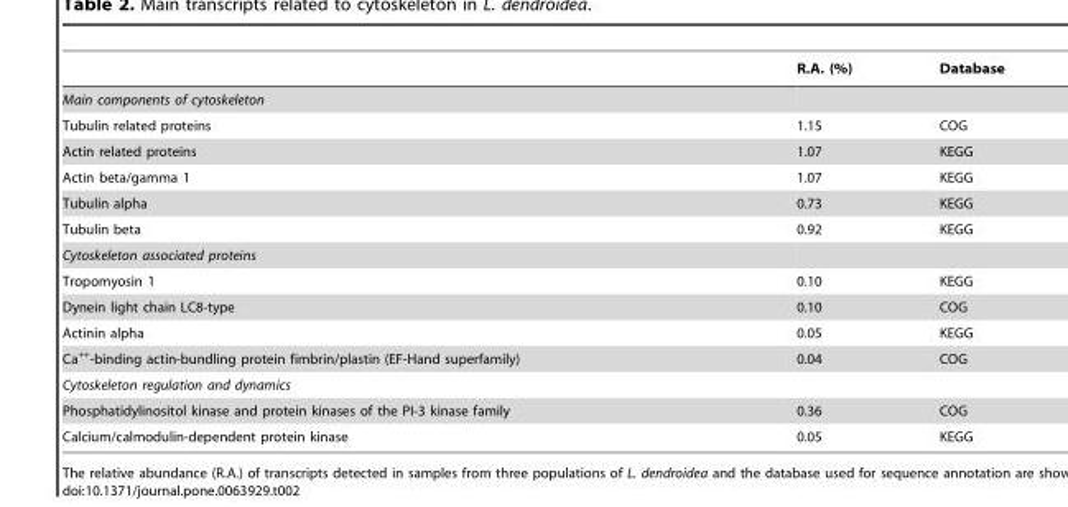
<table><thead><tr><td></td><td>R.A. (%)</td><td>Database</td></tr></thead><tbody><tr><td colspan="3">Main components of cytoskeleton</td></tr><tr><td>Tubulin related proteins</td><td>1.15</td><td>COG</td></tr><tr><td>Actin related proteins</td><td>1.07</td><td>KEGG</td></tr><tr><td>Actin beta/gamma 1</td><td>1.07</td><td>KEGG</td></tr><tr><td>Tubulin alpha</td><td>0.73</td><td>KEGG</td></tr><tr><td>Tubulin beta</td><td>0.92</td><td>KEGG</td></tr><tr><td colspan="3">Cytoskeleton associated proteins</td></tr><tr><td>Tropomyosin 1</td><td>0.10</td><td>KEGG</td></tr><tr><td>Dynein light chain LC8-type</td><td>0.10</td><td>COG</td></tr><tr><td>Actinin alpha</td><td>0.05</td><td>KEGG</td></tr><tr><td>Ca<sup>++</sup>-binding actin-bundling protein fimbrin/plastin (EF-Hand superfamily)</td><td>0.04</td><td>COG</td></tr><tr><td colspan="3">Cytoskeleton regulation and dynamics</td></tr><tr><td>Phosphatidylinositol kinase and protein kinases of the PI-3 kinase family</td><td>0.36</td><td>COG</td></tr><tr><td>Calcium/calmodulin-dependent protein kinase</td><td>0.05</td><td>KEGG</td></tr></tbody></table>